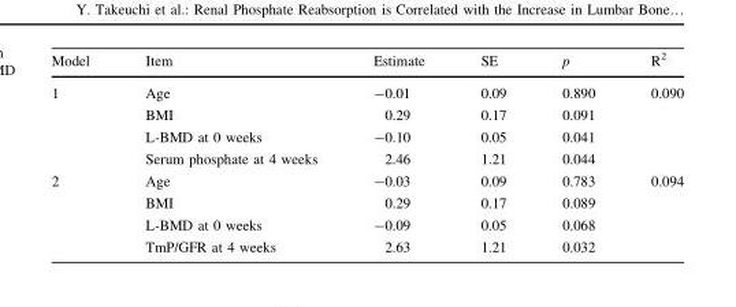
<table><thead><tr><td>Model</td><td>Item</td><td>Estimate</td><td>SE</td><td>p</td><td>R<sup>2</sup></td></tr></thead><tbody><tr><td rowspan="4">1</td><td>Age</td><td>-0.01</td><td>0.09</td><td>0.890</td><td rowspan="4">0.090</td></tr><tr><td>BMI</td><td>0.29</td><td>0.17</td><td>0.091</td></tr><tr><td>L-BMD at 0 weeks</td><td>-0.10</td><td>0.05</td><td>0.041</td></tr><tr><td>Serum phosphate at 4 weeks</td><td>2.46</td><td>1.21</td><td>0.044</td></tr><tr><td rowspan="4">2</td><td>Age</td><td>-0.03</td><td>0.09</td><td>0.783</td><td rowspan="4">0.094</td></tr><tr><td>BMI</td><td>0.29</td><td>0.17</td><td>0.089</td></tr><tr><td>L-BMD at 0 weeks</td><td>-0.09</td><td>0.05</td><td>0.068</td></tr><tr><td>TmP/GFR at 4 weeks</td><td>2.63</td><td>1.21</td><td>0.032</td></tr></tbody></table>